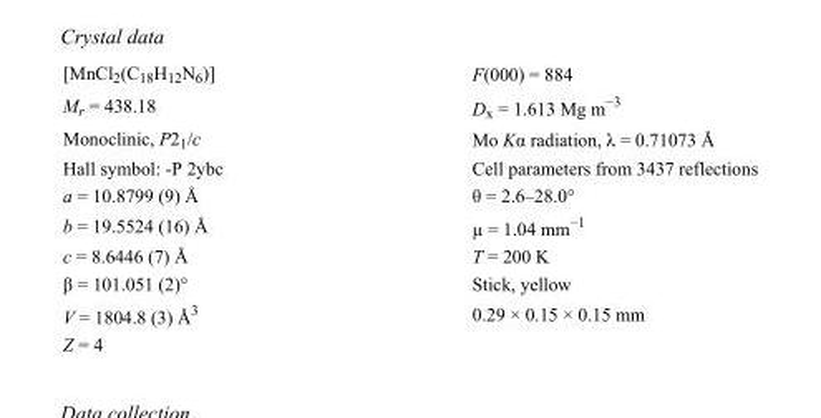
<table><tbody><tr><td>[MnCl<sub>2</sub>(C<sub>18</sub>H<sub>12</sub>N<sub>6</sub>)]</td><td>F(000) = 884</td></tr><tr><td>M<sub>r</sub> = 438.18</td><td>D<sub>x</sub> = 1.613 Mg m<sup>−3</sup></td></tr><tr><td>Monoclinic, P2<sub>1</sub>/c</td><td>Mo Kα radiation, λ = 0.71073 Å</td></tr><tr><td>Hall symbol: -P 2ybc</td><td>Cell parameters from 3437 reflections</td></tr><tr><td>a = 10.8799 (9) Å</td><td>θ = 2.6–28.0°</td></tr><tr><td>b = 19.5524 (16) Å</td><td>µ = 1.04 mm<sup>−1</sup></td></tr><tr><td>c = 8.6446 (7) Å</td><td>T = 200 K</td></tr><tr><td>β = 101.051 (2)°</td><td>Stick, yellow</td></tr><tr><td>V = 1804.8 (3) Å<sup>3</sup></td><td>0.29 × 0.15 × 0.15 mm</td></tr><tr><td>Z = 4</td><td></td></tr></tbody></table>